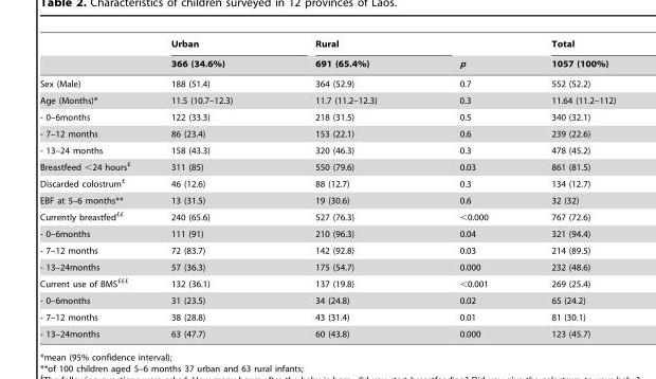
<table><thead><tr><td rowspan="2"></td><td rowspan="2">Urban 366 (34.6%)</td><td rowspan="2">Rural 691 (65.4%)</td><td rowspan="2">p</td><td rowspan="2">Total 1057 (100%)</td></tr><tr></tr></thead><tbody><tr><td>Sex (Male)</td><td>188 (51.4)</td><td>364 (52.9)</td><td>0.7</td><td>552 (52.2)</td></tr><tr><td>Age (Months)*</td><td>11.5 (10.7–12.3)</td><td>11.7 (11.2–12.3)</td><td>0.3</td><td>11.64 (11.2–112)</td></tr><tr><td>- 0–6months</td><td>122 (33.3)</td><td>218 (31.5)</td><td>0.5</td><td>340 (32.1)</td></tr><tr><td>- 7–12 months</td><td>86 (23.4)</td><td>153 (22.1)</td><td>0.6</td><td>239 (22.6)</td></tr><tr><td>- 13–24 months</td><td>158 (43.3)</td><td>320 (46.3)</td><td>0.3</td><td>478 (45.2)</td></tr><tr><td>Breastfeed &lt;24 hours£</td><td>311 (85)</td><td>550 (79.6)</td><td>0.03</td><td>861 (81.5)</td></tr><tr><td>Discarded colostrum£</td><td>46 (12.6)</td><td>88 (12.7)</td><td>0.3</td><td>134 (12.7)</td></tr><tr><td>EBF at 5–6 months**</td><td>13 (31.5)</td><td>19 (30.6)</td><td>0.6</td><td>32 (32)</td></tr><tr><td>Currently breastfed££</td><td>240 (65.6)</td><td>527 (76.3)</td><td>&lt;0.000</td><td>767 (72.6)</td></tr><tr><td>- 0–6months</td><td>111 (91)</td><td>210 (96.3)</td><td>0.04</td><td>321 (94.4)</td></tr><tr><td>- 7–12 months</td><td>72 (83.7)</td><td>142 (92.8)</td><td>0.03</td><td>214 (89.5)</td></tr><tr><td>- 13–24months</td><td>57 (36.3)</td><td>175 (54.7)</td><td>0.000</td><td>232 (48.6)</td></tr><tr><td>Current use of BMS£££</td><td>132 (36.1)</td><td>137 (19.8)</td><td>&lt;0.001</td><td>269 (25.4)</td></tr><tr><td>- 0–6months</td><td>31 (23.5)</td><td>34 (24.8)</td><td>0.02</td><td>65 (24.2)</td></tr><tr><td>- 7–12 months</td><td>38 (28.8)</td><td>43 (31.4)</td><td>0.01</td><td>81 (30.1)</td></tr><tr><td>- 13–24months</td><td>63 (47.7)</td><td>60 (43.8)</td><td>0.000</td><td>123 (45.7)</td></tr></tbody></table>